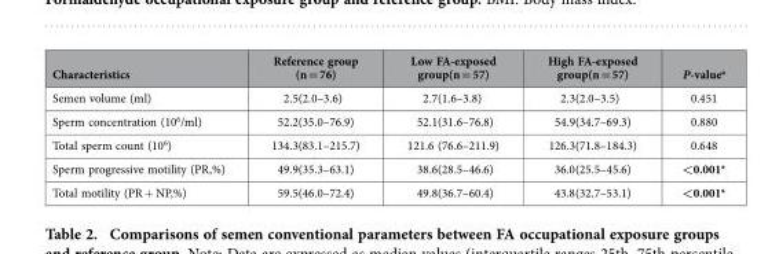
<table><thead><tr><td>Characteristics</td><td>Reference group (n = 76)</td><td>Low FA-exposed group(n = 57)</td><td>High FA-exposed group(n = 57)</td><td>P-value<sup>a</sup></td></tr></thead><tbody><tr><td>Semen volume (ml)</td><td>2.5(2.0–3.6)</td><td>2.7(1.6–3.8)</td><td>2.3(2.0–3.5)</td><td>0.451</td></tr><tr><td>Sperm concentration (10<sup>6</sup>/ml)</td><td>52.2(35.0–76.9)</td><td>52.1(31.6–76.8)</td><td>54.9(34.7–69.3)</td><td>0.880</td></tr><tr><td>Total sperm count (10<sup>6</sup>)</td><td>134.3(83.1–215.7)</td><td>121.6 (76.6–211.9)</td><td>126.3(71.8–184.3)</td><td>0.648</td></tr><tr><td>Sperm progressive motility (PR,%)</td><td>49.9(35.3–63.1)</td><td>38.6(28.5–46.6)</td><td>36.0(25.5–45.6)</td><td>&lt;0.001*</td></tr><tr><td>Total motility (PR + NP,%)</td><td>59.5(46.0–72.4)</td><td>49.8(36.7–60.4)</td><td>43.8(32.7–53.1)</td><td>&lt;0.001*</td></tr></tbody></table>